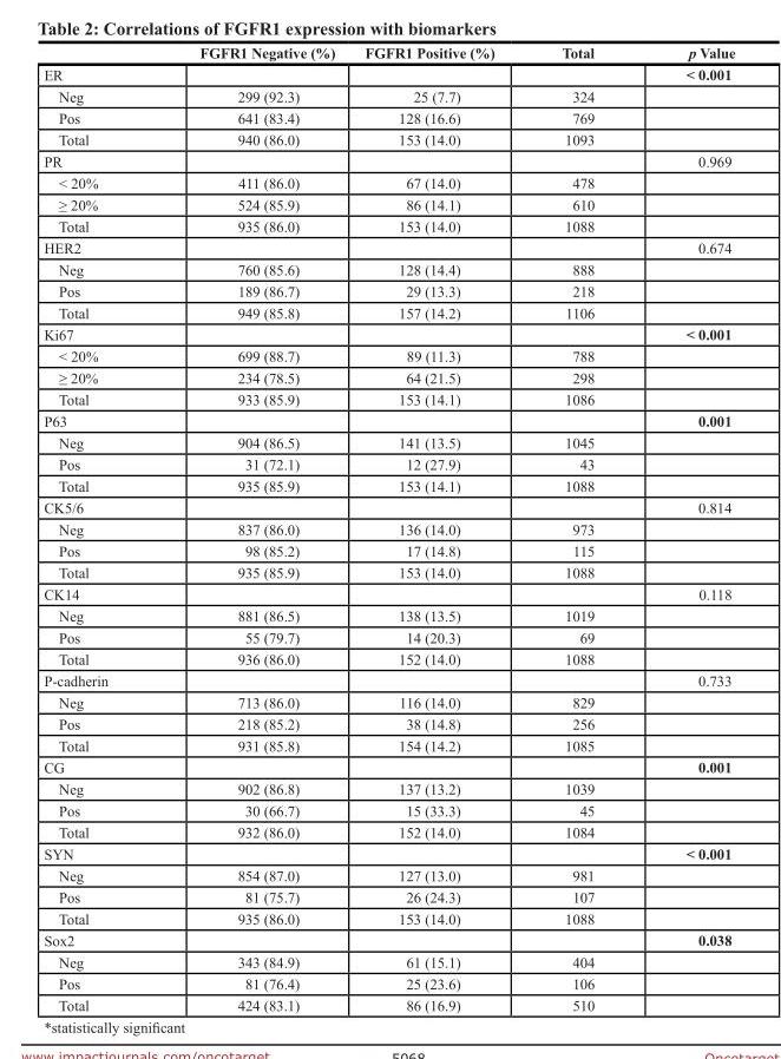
<table><thead><tr><td></td><td>FGFR1 Negative (%)</td><td>FGFR1 Positive (%)</td><td>Total</td><td>p Value</td></tr></thead><tbody><tr><td>ER</td><td></td><td></td><td></td><td>&lt; 0.001</td></tr><tr><td>Neg</td><td>299 (92.3)</td><td>25 (7.7)</td><td>324</td><td></td></tr><tr><td>Pos</td><td>641 (83.4)</td><td>128 (16.6)</td><td>769</td><td></td></tr><tr><td>Total</td><td>940 (86.0)</td><td>153 (14.0)</td><td>1093</td><td></td></tr><tr><td>PR</td><td></td><td></td><td></td><td>0.969</td></tr><tr><td>&lt; 20%</td><td>411 (86.0)</td><td>67 (14.0)</td><td>478</td><td></td></tr><tr><td>≥ 20%</td><td>524 (85.9)</td><td>86 (14.1)</td><td>610</td><td></td></tr><tr><td>Total</td><td>935 (86.0)</td><td>153 (14.0)</td><td>1088</td><td></td></tr><tr><td>HER2</td><td></td><td></td><td></td><td>0.674</td></tr><tr><td>Neg</td><td>760 (85.6)</td><td>128 (14.4)</td><td>888</td><td></td></tr><tr><td>Pos</td><td>189 (86.7)</td><td>29 (13.3)</td><td>218</td><td></td></tr><tr><td>Total</td><td>949 (85.8)</td><td>157 (14.2)</td><td>1106</td><td></td></tr><tr><td>Ki67</td><td></td><td></td><td></td><td>&lt; 0.001</td></tr><tr><td>&lt; 20%</td><td>699 (88.7)</td><td>89 (11.3)</td><td>788</td><td></td></tr><tr><td>≥ 20%</td><td>234 (78.5)</td><td>64 (21.5)</td><td>298</td><td></td></tr><tr><td>Total</td><td>933 (85.9)</td><td>153 (14.1)</td><td>1086</td><td></td></tr><tr><td>P63</td><td></td><td></td><td></td><td>0.001</td></tr><tr><td>Neg</td><td>904 (86.5)</td><td>141 (13.5)</td><td>1045</td><td></td></tr><tr><td>Pos</td><td>31 (72.1)</td><td>12 (27.9)</td><td>43</td><td></td></tr><tr><td>Total</td><td>935 (85.9)</td><td>153 (14.1)</td><td>1088</td><td></td></tr><tr><td>CK5/6</td><td></td><td></td><td></td><td>0.814</td></tr><tr><td>Neg</td><td>837 (86.0)</td><td>136 (14.0)</td><td>973</td><td></td></tr><tr><td>Pos</td><td>98 (85.2)</td><td>17 (14.8)</td><td>115</td><td></td></tr><tr><td>Total</td><td>935 (85.9)</td><td>153 (14.0)</td><td>1088</td><td></td></tr><tr><td>CK14</td><td></td><td></td><td></td><td>0.118</td></tr><tr><td>Neg</td><td>881 (86.5)</td><td>138 (13.5)</td><td>1019</td><td></td></tr><tr><td>Pos</td><td>55 (79.7)</td><td>14 (20.3)</td><td>69</td><td></td></tr><tr><td>Total</td><td>936 (86.0)</td><td>152 (14.0)</td><td>1088</td><td></td></tr><tr><td>P-cadherin</td><td></td><td></td><td></td><td>0.733</td></tr><tr><td>Neg</td><td>713 (86.0)</td><td>116 (14.0)</td><td>829</td><td></td></tr><tr><td>Pos</td><td>218 (85.2)</td><td>38 (14.8)</td><td>256</td><td></td></tr><tr><td>Total</td><td>931 (85.8)</td><td>154 (14.2)</td><td>1085</td><td></td></tr><tr><td>CG</td><td></td><td></td><td></td><td>0.001</td></tr><tr><td>Neg</td><td>902 (86.8)</td><td>137 (13.2)</td><td>1039</td><td></td></tr><tr><td>Pos</td><td>30 (66.7)</td><td>15 (33.3)</td><td>45</td><td></td></tr><tr><td>Total</td><td>932 (86.0)</td><td>152 (14.0)</td><td>1084</td><td></td></tr><tr><td>SYN</td><td></td><td></td><td></td><td>&lt; 0.001</td></tr><tr><td>Neg</td><td>854 (87.0)</td><td>127 (13.0)</td><td>981</td><td></td></tr><tr><td>Pos</td><td>81 (75.7)</td><td>26 (24.3)</td><td>107</td><td></td></tr><tr><td>Total</td><td>935 (86.0)</td><td>153 (14.0)</td><td>1088</td><td></td></tr><tr><td>Sox2</td><td></td><td></td><td></td><td>0.038</td></tr><tr><td>Neg</td><td>343 (84.9)</td><td>61 (15.1)</td><td>404</td><td></td></tr><tr><td>Pos</td><td>81 (76.4)</td><td>25 (23.6)</td><td>106</td><td></td></tr><tr><td>Total</td><td>424 (83.1)</td><td>86 (16.9)</td><td>510</td><td></td></tr></tbody></table>